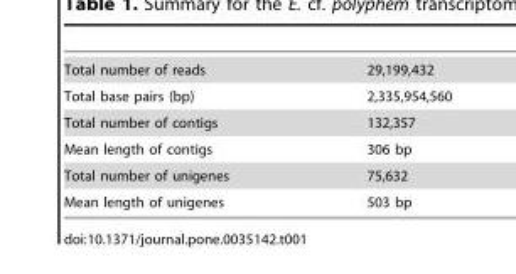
<table><tbody><tr><td>Total number of reads</td><td>29,199,432</td></tr><tr><td>Total base pairs (bp)</td><td>2,335,954,560</td></tr><tr><td>Total number of contigs</td><td>132,357</td></tr><tr><td>Mean length of contigs</td><td>306 bp</td></tr><tr><td>Total number of unigenes</td><td>75,632</td></tr><tr><td>Mean length of unigenes</td><td>503 bp</td></tr></tbody></table>